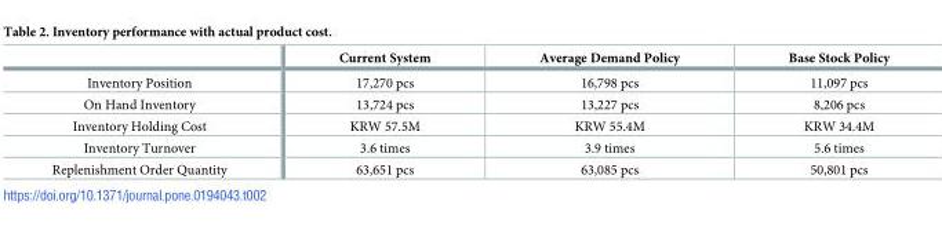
<table><thead><tr><td></td><td>Current System</td><td>Average Demand Policy</td><td>Base Stock Policy</td></tr></thead><tbody><tr><td>Inventory Position</td><td>17,270 pcs</td><td>16,798 pcs</td><td>11,097 pcs</td></tr><tr><td>On Hand Inventory</td><td>13,724 pcs</td><td>13,227 pcs</td><td>8,206 pcs</td></tr><tr><td>Inventory Holding Cost</td><td>KRW 57.5M</td><td>KRW 55.4M</td><td>KRW 34.4M</td></tr><tr><td>Inventory Turnover</td><td>3.6 times</td><td>3.9 times</td><td>5.6 times</td></tr><tr><td>Replenishment Order Quantity</td><td>63,651 pcs</td><td>63,085 pcs</td><td>50,801 pcs</td></tr></tbody></table>